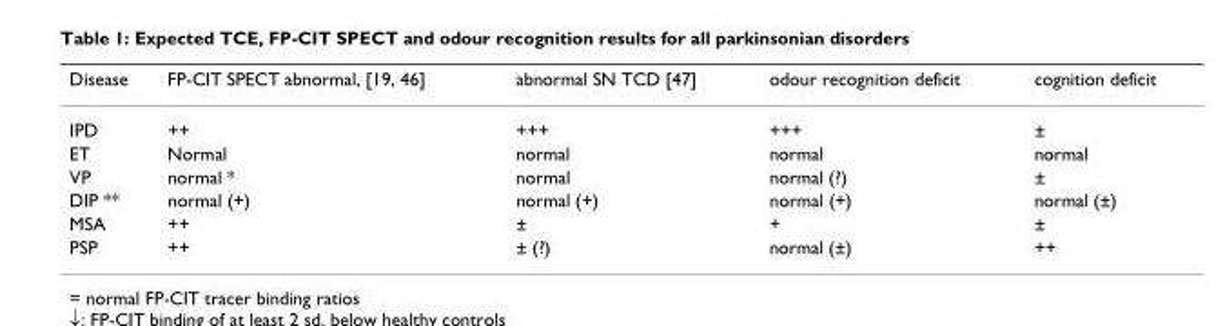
<table><thead><tr><td>Disease</td><td>FP-CIT SPECT abnormal, [19, 46]</td><td>abnormal SN TCD [47]</td><td>odour recognition deficit</td><td>cognition deficit</td></tr></thead><tbody><tr><td>IPD</td><td>++</td><td>+++</td><td>+++</td><td>±</td></tr><tr><td>ET</td><td>Normal</td><td>normal</td><td>normal</td><td>normal</td></tr><tr><td>VP</td><td>normal *</td><td>normal</td><td>normal (?)</td><td>±</td></tr><tr><td>DIP **</td><td>normal (+)</td><td>normal (+)</td><td>normal (+)</td><td>normal (±)</td></tr><tr><td>MSA</td><td>++</td><td>±</td><td>+</td><td>±</td></tr><tr><td>PSP</td><td>++</td><td>± (?)</td><td>normal (±)</td><td>++</td></tr></tbody></table>